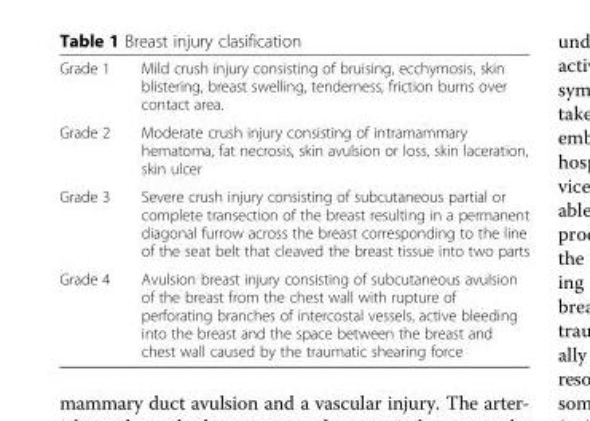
<table><tbody><tr><td>Grade 1</td><td>Mild crush injury consisting of bruising, ecchymosis, skin blistering, breast swelling, tenderness, friction burns over contact area.</td></tr><tr><td>Grade 2</td><td>Moderate crush injury consisting of intramammary hematoma, fat necrosis, skin avulsion or loss, skin laceration, skin ulcer</td></tr><tr><td>Grade 3</td><td>Severe crush injury consisting of subcutaneous partial or complete transection of the breast resulting in a permanent diagonal furrow across the breast corresponding to the line of the seat belt that cleaved the breast tissue into two parts</td></tr><tr><td>Grade 4</td><td>Avulsion breast injury consisting of subcutaneous avulsion of the breast from the chest wall with rupture of perforating branches of intercostal vessels, active bleeding into the breast and the space between the breast and chest wall caused by the traumatic shearing force</td></tr></tbody></table>